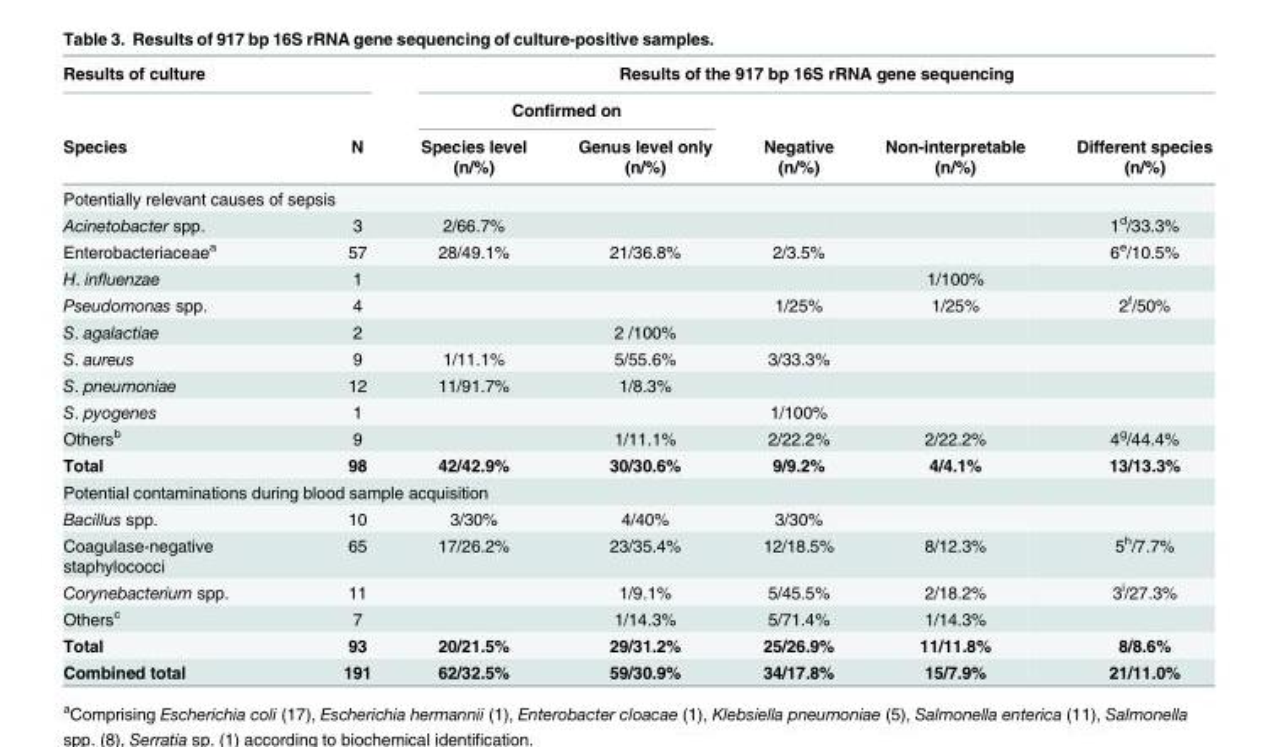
<table><thead><tr><td colspan="2">Results of culture</td><td colspan="5">Results of the 917 bp 16S rRNA gene sequencing</td></tr><tr><td rowspan="2">Species</td><td rowspan="2">N</td><td colspan="2">Confirmed on</td><td rowspan="2">Negative (n/%)</td><td rowspan="2">Non-interpretable (n/%)</td><td rowspan="2">Different species (n/%)</td></tr><tr><td>Species level (n/%)</td><td>Genus level only (n/%)</td></tr></thead><tbody><tr><td colspan="7">Potentially relevant causes of sepsis</td></tr><tr><td>Acinetobacter spp.</td><td>3</td><td>2/66.7%</td><td></td><td></td><td></td><td>1<sup>d</sup>/33.3%</td></tr><tr><td>Enterobacteriaceae<sup>a</sup></td><td>57</td><td>28/49.1%</td><td>21/36.8%</td><td>2/3.5%</td><td></td><td>6<sup>e</sup>/10.5%</td></tr><tr><td>H. influenzae</td><td>1</td><td></td><td></td><td></td><td>1/100%</td><td></td></tr><tr><td>Pseudomonas spp.</td><td>4</td><td></td><td></td><td>1/25%</td><td>1/25%</td><td>2<sup>f</sup>/50%</td></tr><tr><td>S. agalactiae</td><td>2</td><td></td><td>2 /100%</td><td></td><td></td><td></td></tr><tr><td>S. aureus</td><td>9</td><td>1/11.1%</td><td>5/55.6%</td><td>3/33.3%</td><td></td><td></td></tr><tr><td>S. pneumoniae</td><td>12</td><td>11/91.7%</td><td>1/8.3%</td><td></td><td></td><td></td></tr><tr><td>S. pyogenes</td><td>1</td><td></td><td></td><td>1/100%</td><td></td><td></td></tr><tr><td>Others<sup>b</sup></td><td>9</td><td></td><td>1/11.1%</td><td>2/22.2%</td><td>2/22.2%</td><td>4<sup>g</sup>/44.4%</td></tr><tr><td>Total</td><td>98</td><td>42/42.9%</td><td>30/30.6%</td><td>9/9.2%</td><td>4/4.1%</td><td>13/13.3%</td></tr><tr><td colspan="7">Potential contaminations during blood sample acquisition</td></tr><tr><td>Bacillus spp.</td><td>10</td><td>3/30%</td><td>4/40%</td><td>3/30%</td><td></td><td></td></tr><tr><td>Coagulase-negative staphylococci</td><td>65</td><td>17/26.2%</td><td>23/35.4%</td><td>12/18.5%</td><td>8/12.3%</td><td>5<sup>h</sup>/7.7%</td></tr><tr><td>Corynebacterium spp.</td><td>11</td><td></td><td>1/9.1%</td><td>5/45.5%</td><td>2/18.2%</td><td>3<sup>i</sup>/27.3%</td></tr><tr><td>Others<sup>c</sup></td><td>7</td><td></td><td>1/14.3%</td><td>5/71.4%</td><td>1/14.3%</td><td></td></tr><tr><td>Total</td><td>93</td><td>20/21.5%</td><td>29/31.2%</td><td>25/26.9%</td><td>11/11.8%</td><td>8/8.6%</td></tr><tr><td>Combined total</td><td>191</td><td>62/32.5%</td><td>59/30.9%</td><td>34/17.8%</td><td>15/7.9%</td><td>21/11.0%</td></tr></tbody></table>